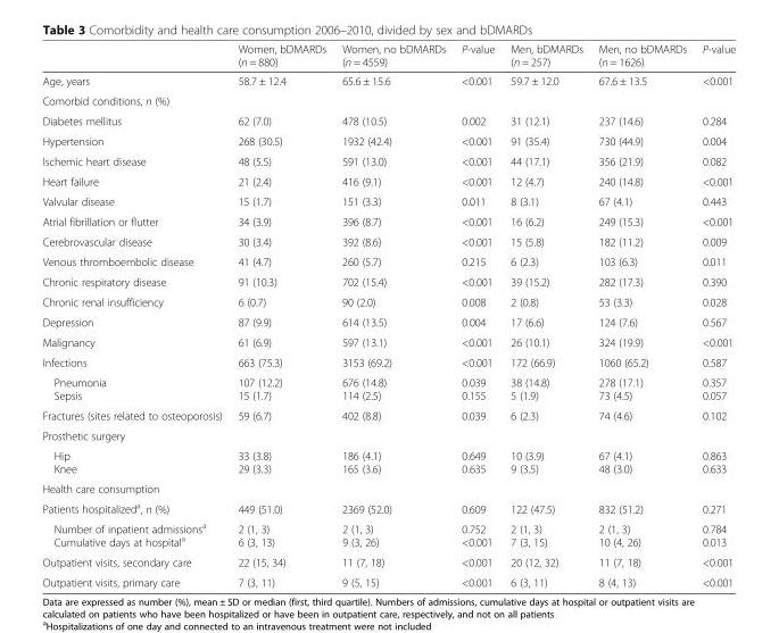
<table><thead><tr><td></td><td>Women, bDMARDs (n = 880)</td><td>Women, no bDMARDs (n = 4559)</td><td>P-value</td><td>Men, bDMARDs (n = 257)</td><td>Men, no bDMARDs (n = 1626)</td><td>P-value</td></tr></thead><tbody><tr><td>Age, years</td><td>58.7 ± 12.4</td><td>65.6 ± 15.6</td><td>&lt;0.001</td><td>59.7 ± 12.0</td><td>67.6 ± 13.5</td><td>&lt;0.001</td></tr><tr><td colspan="7">Comorbid conditions, n (%)</td></tr><tr><td>Diabetes mellitus</td><td>62 (7.0)</td><td>478 (10.5)</td><td>0.002</td><td>31 (12.1)</td><td>237 (14.6)</td><td>0.284</td></tr><tr><td>Hypertension</td><td>268 (30.5)</td><td>1932 (42.4)</td><td>&lt;0.001</td><td>91 (35.4)</td><td>730 (44.9)</td><td>0.004</td></tr><tr><td>Ischemic heart disease</td><td>48 (5.5)</td><td>591 (13.0)</td><td>&lt;0.001</td><td>44 (17.1)</td><td>356 (21.9)</td><td>0.082</td></tr><tr><td>Heart failure</td><td>21 (2.4)</td><td>416 (9.1)</td><td>&lt;0.001</td><td>12 (4.7)</td><td>240 (14.8)</td><td>&lt;0.001</td></tr><tr><td>Valvular disease</td><td>15 (1.7)</td><td>151 (3.3)</td><td>0.011</td><td>8 (3.1)</td><td>67 (4.1)</td><td>0.443</td></tr><tr><td>Atrial fibrillation or flutter</td><td>34 (3.9)</td><td>396 (8.7)</td><td>&lt;0.001</td><td>16 (6.2)</td><td>249 (15.3)</td><td>&lt;0.001</td></tr><tr><td>Cerebrovascular disease</td><td>30 (3.4)</td><td>392 (8.6)</td><td>&lt;0.001</td><td>15 (5.8)</td><td>182 (11.2)</td><td>0.009</td></tr><tr><td>Venous thromboembolic disease</td><td>41 (4.7)</td><td>260 (5.7)</td><td>0.215</td><td>6 (2.3)</td><td>103 (6.3)</td><td>0.011</td></tr><tr><td>Chronic respiratory disease</td><td>91 (10.3)</td><td>702 (15.4)</td><td>&lt;0.001</td><td>39 (15.2)</td><td>282 (17.3)</td><td>0.390</td></tr><tr><td>Chronic renal insufficiency</td><td>6 (0.7)</td><td>90 (2.0)</td><td>0.008</td><td>2 (0.8)</td><td>53 (3.3)</td><td>0.028</td></tr><tr><td>Depression</td><td>87 (9.9)</td><td>614 (13.5)</td><td>0.004</td><td>17 (6.6)</td><td>124 (7.6)</td><td>0.567</td></tr><tr><td>Malignancy</td><td>61 (6.9)</td><td>597 (13.1)</td><td>&lt;0.001</td><td>26 (10.1)</td><td>324 (19.9)</td><td>&lt;0.001</td></tr><tr><td>Infections</td><td>663 (75.3)</td><td>3153 (69.2)</td><td>&lt;0.001</td><td>172 (66.9)</td><td>1060 (65.2)</td><td>0.587</td></tr><tr><td>Pneumonia Sepsis</td><td>107 (12.2) 15 (1.7)</td><td>676 (14.8) 114 (2.5)</td><td>0.039 0.155</td><td>38 (14.8) 5 (1.9)</td><td>278 (17.1) 73 (4.5)</td><td>0.357 0.057</td></tr><tr><td>Fractures (sites related to osteoporosis)</td><td>59 (6.7)</td><td>402 (8.8)</td><td>0.039</td><td>6 (2.3)</td><td>74 (4.6)</td><td>0.102</td></tr><tr><td colspan="7">Prosthetic surgery</td></tr><tr><td>Hip Knee</td><td>33 (3.8) 29 (3.3)</td><td>186 (4.1) 165 (3.6)</td><td>0.649 0.635</td><td>10 (3.9) 9 (3.5)</td><td>67 (4.1) 48 (3.0)</td><td>0.863 0.633</td></tr><tr><td colspan="7">Health care consumption</td></tr><tr><td>Patients hospitalized<sup>a</sup>, n (%)</td><td>449 (51.0)</td><td>2369 (52.0)</td><td>0.609</td><td>122 (47.5)</td><td>832 (51.2)</td><td>0.271</td></tr><tr><td>Number of inpatient admissions<sup>a</sup> Cumulative days at hospital<sup>a</sup></td><td>2 (1, 3) 6 (3, 13)</td><td>2 (1, 3) 9 (3, 26)</td><td>0.752 &lt;0.001</td><td>2 (1, 3) 7 (3, 15)</td><td>2 (1, 3) 10 (4, 26)</td><td>0.784 0.013</td></tr><tr><td>Outpatient visits, secondary care</td><td>22 (15, 34)</td><td>11 (7, 18)</td><td>&lt;0.001</td><td>20 (12, 32)</td><td>11 (7, 18)</td><td>&lt;0.001</td></tr><tr><td>Outpatient visits, primary care</td><td>7 (3, 11)</td><td>9 (5, 15)</td><td>&lt;0.001</td><td>6 (3, 11)</td><td>8 (4, 13)</td><td>&lt;0.001</td></tr></tbody></table>